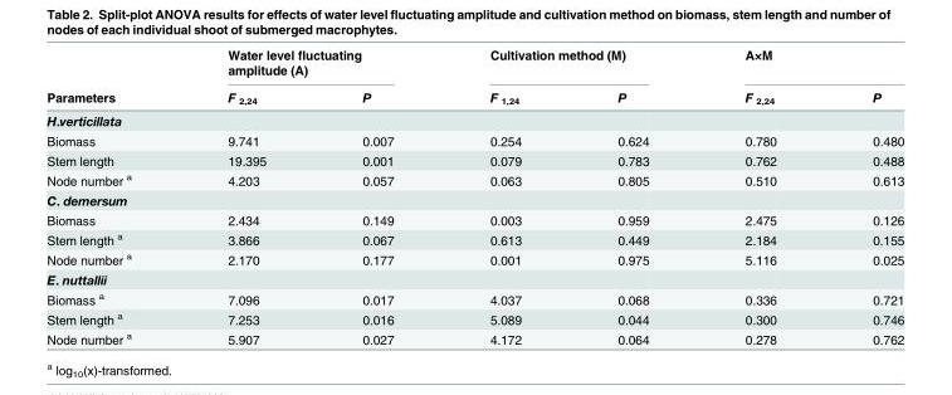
<table><thead><tr><td rowspan="2">Parameters</td><td colspan="2">Water level fluctuating amplitude (A)</td><td colspan="2">Cultivation method (M)</td><td colspan="2">A×M</td></tr><tr><td>F <sub>2,24</sub></td><td>P</td><td>F <sub>1,24</sub></td><td>P</td><td>F <sub>2,24</sub></td><td>P</td></tr></thead><tbody><tr><td colspan="7">H.verticillata</td></tr><tr><td>Biomass</td><td>9.741</td><td>0.007</td><td>0.254</td><td>0.624</td><td>0.780</td><td>0.480</td></tr><tr><td>Stem length</td><td>19.395</td><td>0.001</td><td>0.079</td><td>0.783</td><td>0.762</td><td>0.488</td></tr><tr><td>Node number <sup>a</sup></td><td>4.203</td><td>0.057</td><td>0.063</td><td>0.805</td><td>0.510</td><td>0.613</td></tr><tr><td colspan="7">C. demersum</td></tr><tr><td>Biomass</td><td>2.434</td><td>0.149</td><td>0.003</td><td>0.959</td><td>2.475</td><td>0.126</td></tr><tr><td>Stem length <sup>a</sup></td><td>3.866</td><td>0.067</td><td>0.613</td><td>0.449</td><td>2.184</td><td>0.155</td></tr><tr><td>Node number <sup>a</sup></td><td>2.170</td><td>0.177</td><td>0.001</td><td>0.975</td><td>5.116</td><td>0.025</td></tr><tr><td colspan="7">E. nuttallii</td></tr><tr><td>Biomass <sup>a</sup></td><td>7.096</td><td>0.017</td><td>4.037</td><td>0.068</td><td>0.336</td><td>0.721</td></tr><tr><td>Stem length <sup>a</sup></td><td>7.253</td><td>0.016</td><td>5.089</td><td>0.044</td><td>0.300</td><td>0.746</td></tr><tr><td>Node number <sup>a</sup></td><td>5.907</td><td>0.027</td><td>4.172</td><td>0.064</td><td>0.278</td><td>0.762</td></tr></tbody></table>